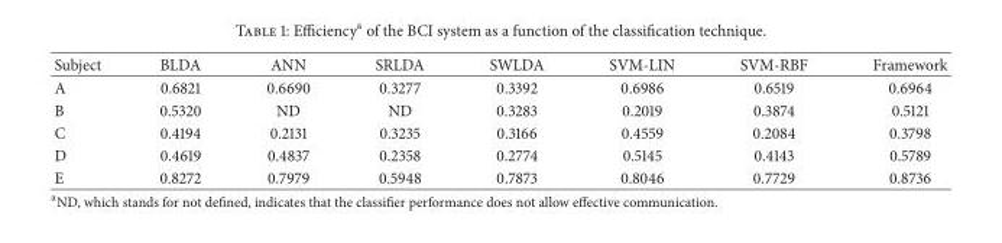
<table><thead><tr><td>Subject</td><td>BLDA</td><td>ANN</td><td>SRLDA</td><td>SWLDA</td><td>SVM-LIN</td><td>SVM-RBF</td><td>Framework</td></tr></thead><tbody><tr><td>A</td><td>0.6821</td><td>0.6690</td><td>0.3277</td><td>0.3392</td><td>0.6986</td><td>0.6519</td><td>0.6964</td></tr><tr><td>B</td><td>0.5320</td><td>ND</td><td>ND</td><td>0.3283</td><td>0.2019</td><td>0.3874</td><td>0.5121</td></tr><tr><td>C</td><td>0.4194</td><td>0.2131</td><td>0.3235</td><td>0.3166</td><td>0.4559</td><td>0.2084</td><td>0.3798</td></tr><tr><td>D</td><td>0.4619</td><td>0.4837</td><td>0.2358</td><td>0.2774</td><td>0.5145</td><td>0.4143</td><td>0.5789</td></tr><tr><td>E</td><td>0.8272</td><td>0.7979</td><td>0.5948</td><td>0.7873</td><td>0.8046</td><td>0.7729</td><td>0.8736</td></tr></tbody></table>